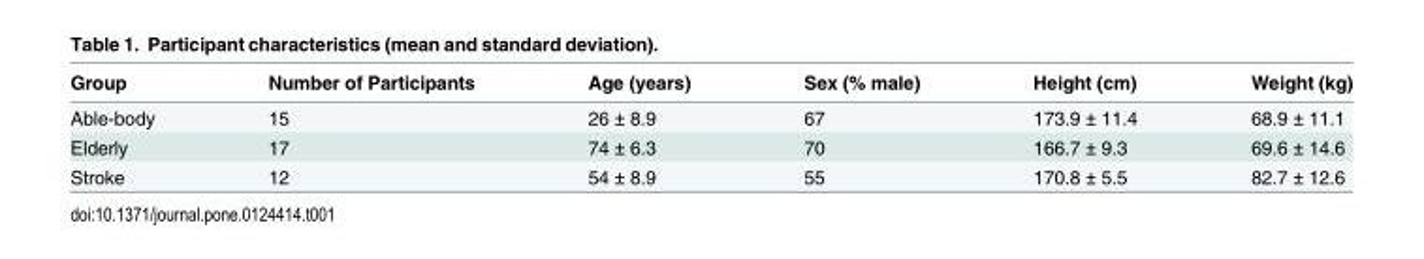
<table><thead><tr><td>Group</td><td>Number of Participants</td><td>Age (years)</td><td>Sex (% male)</td><td>Height (cm)</td><td>Weight (kg)</td></tr></thead><tbody><tr><td>Able-body</td><td>15</td><td>26 ± 8.9</td><td>67</td><td>173.9 ± 11.4</td><td>68.9 ± 11.1</td></tr><tr><td>Elderly</td><td>17</td><td>74 ± 6.3</td><td>70</td><td>166.7 ± 9.3</td><td>69.6 ± 14.6</td></tr><tr><td>Stroke</td><td>12</td><td>54 ± 8.9</td><td>55</td><td>170.8 ± 5.5</td><td>82.7 ± 12.6</td></tr></tbody></table>